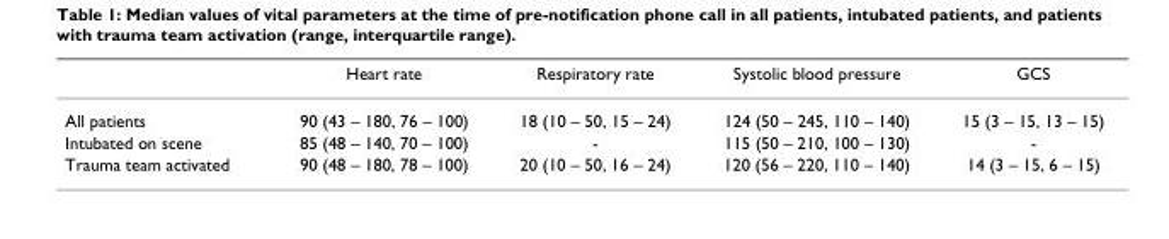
<table><thead><tr><td></td><td>Heart rate</td><td>Respiratory rate</td><td>Systolic blood pressure</td><td>GCS</td></tr></thead><tbody><tr><td>All patients</td><td>90 (43 – 180, 76 – 100)</td><td>18 (10 – 50, 15 – 24)</td><td>124 (50 – 245, 110 – 140)</td><td>15 (3 – 15, 13 – 15)</td></tr><tr><td>Intubated on scene</td><td>85 (48 – 140, 70 – 100)</td><td>-</td><td>115 (50 – 210, 100 – 130)</td><td>-</td></tr><tr><td>Trauma team activated</td><td>90 (48 – 180, 78 – 100)</td><td>20 (10 – 50, 16 – 24)</td><td>120 (56 – 220, 110 – 140)</td><td>14 (3 – 15, 6 – 15)</td></tr></tbody></table>